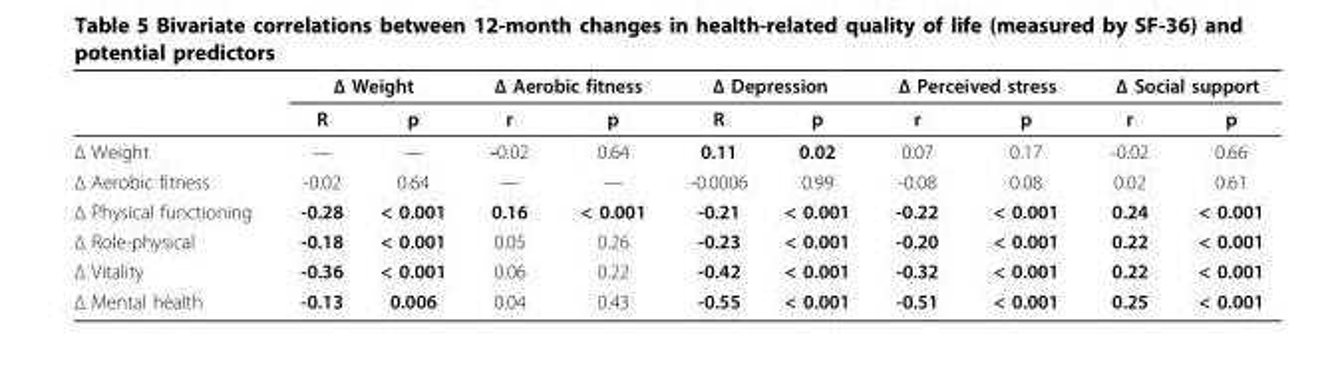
<table><thead><tr><td rowspan="2"></td><td colspan="2">Δ Weight</td><td colspan="2">Δ Aerobic fitness</td><td colspan="2">Δ Depression</td><td colspan="2">Δ Perceived stress</td><td colspan="2">Δ Social support</td></tr><tr><td>R</td><td>p</td><td>r</td><td>p</td><td>R</td><td>p</td><td>r</td><td>p</td><td>r</td><td>p</td></tr></thead><tbody><tr><td>Δ Weight</td><td>—</td><td>—</td><td>-0.02</td><td>0.64</td><td>0.11</td><td>0.02</td><td>0.07</td><td>0.17</td><td>-0.02</td><td>0.66</td></tr><tr><td>Δ Aerobic fitness</td><td>-0.02</td><td>0.64</td><td>—</td><td>—</td><td>-0.0006</td><td>0.99</td><td>-0.08</td><td>0.08</td><td>0.02</td><td>0.61</td></tr><tr><td>Δ Physical functioning</td><td>-0.28</td><td>&lt; 0.001</td><td>0.16</td><td>&lt; 0.001</td><td>-0.21</td><td>&lt; 0.001</td><td>-0.22</td><td>&lt; 0.001</td><td>0.24</td><td>&lt; 0.001</td></tr><tr><td>Δ Role-physical</td><td>-0.18</td><td>&lt; 0.001</td><td>0.05</td><td>0.26</td><td>-0.23</td><td>&lt; 0.001</td><td>-0.20</td><td>&lt; 0.001</td><td>0.22</td><td>&lt; 0.001</td></tr><tr><td>Δ Vitality</td><td>-0.36</td><td>&lt; 0.001</td><td>0.06</td><td>0.22</td><td>-0.42</td><td>&lt; 0.001</td><td>-0.32</td><td>&lt; 0.001</td><td>0.22</td><td>&lt; 0.001</td></tr><tr><td>Δ Mental health</td><td>-0.13</td><td>0.006</td><td>0.04</td><td>0.43</td><td>-0.55</td><td>&lt; 0.001</td><td>-0.51</td><td>&lt; 0.001</td><td>0.25</td><td>&lt; 0.001</td></tr></tbody></table>